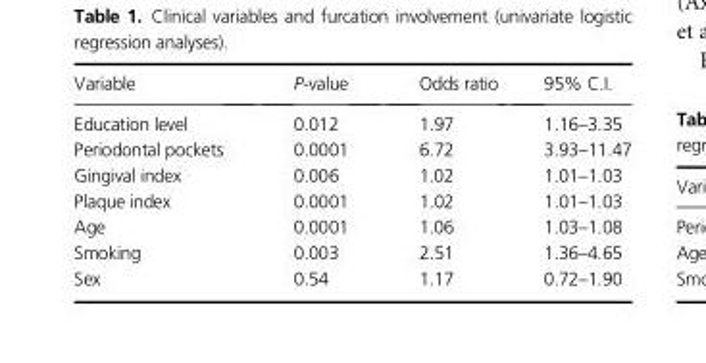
<table><thead><tr><td>Variable</td><td>P-value</td><td>Odds ratio</td><td>95% C.I.</td></tr></thead><tbody><tr><td>Education level</td><td>0.012</td><td>1.97</td><td>1.16–3.35</td></tr><tr><td>Periodontal pockets</td><td>0.0001</td><td>6.72</td><td>3.93–11.47</td></tr><tr><td>Gingival index</td><td>0.006</td><td>1.02</td><td>1.01–1.03</td></tr><tr><td>Plaque index</td><td>0.0001</td><td>1.02</td><td>1.01–1.03</td></tr><tr><td>Age</td><td>0.0001</td><td>1.06</td><td>1.03–1.08</td></tr><tr><td>Smoking</td><td>0.003</td><td>2.51</td><td>1.36–4.65</td></tr><tr><td>Sex</td><td>0.54</td><td>1.17</td><td>0.72–1.90</td></tr></tbody></table>